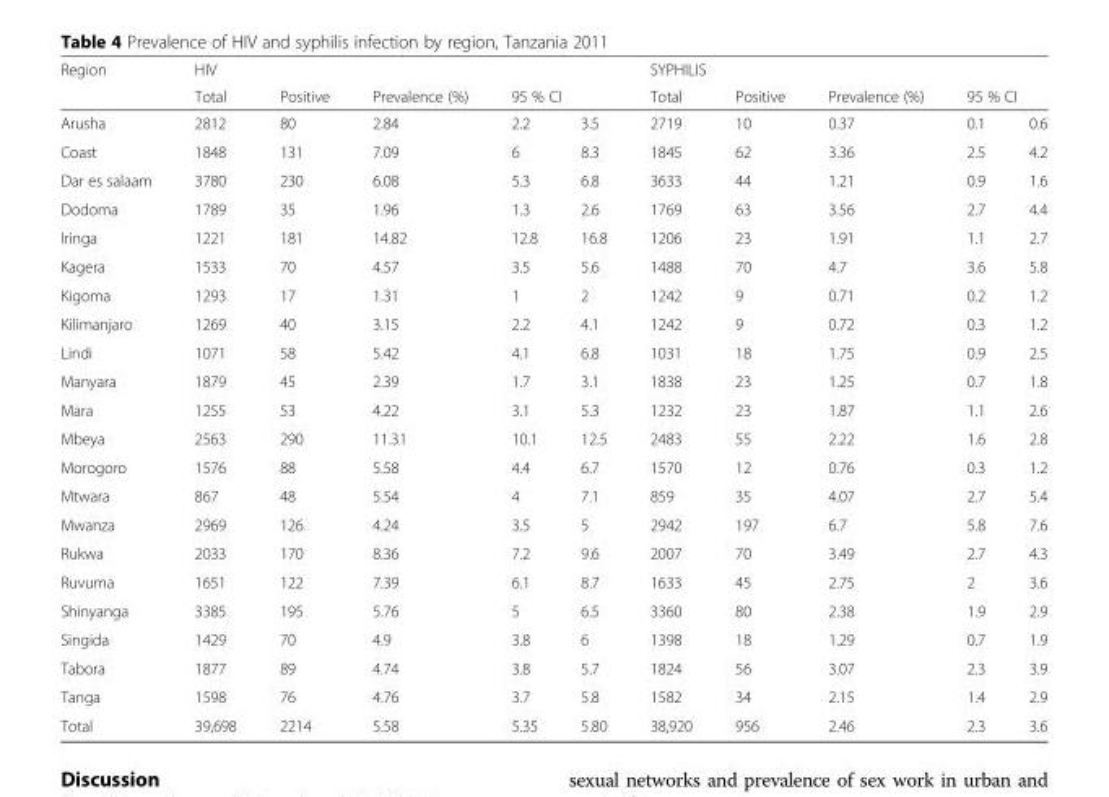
<table><thead><tr><td rowspan="3">Region Arusha</td><td colspan="5">HIV</td><td colspan="5">SYPHILIS</td></tr><tr><td rowspan="2">Total 2812</td><td rowspan="2">Positive 80</td><td rowspan="2">Prevalence (%) 2.84</td><td colspan="2">95 % CI</td><td rowspan="2">Total 2719</td><td rowspan="2">Positive 10</td><td rowspan="2">Prevalence (%) 0.37</td><td colspan="2">95 % CI</td></tr><tr><td>2.2</td><td>3.5</td><td>0.1</td><td>0.6</td></tr></thead><tbody><tr><td>Coast</td><td>1848</td><td>131</td><td>7.09</td><td>6</td><td>8.3</td><td>1845</td><td>62</td><td>3.36</td><td>2.5</td><td>4.2</td></tr><tr><td>Dar es salaam</td><td>3780</td><td>230</td><td>6.08</td><td>5.3</td><td>6.8</td><td>3633</td><td>44</td><td>1.21</td><td>0.9</td><td>1.6</td></tr><tr><td>Dodoma</td><td>1789</td><td>35</td><td>1.96</td><td>1.3</td><td>2.6</td><td>1769</td><td>63</td><td>3.56</td><td>2.7</td><td>4.4</td></tr><tr><td>Iringa</td><td>1221</td><td>181</td><td>14.82</td><td>12.8</td><td>16.8</td><td>1206</td><td>23</td><td>1.91</td><td>1.1</td><td>2.7</td></tr><tr><td>Kagera</td><td>1533</td><td>70</td><td>4.57</td><td>3.5</td><td>5.6</td><td>1488</td><td>70</td><td>4.7</td><td>3.6</td><td>5.8</td></tr><tr><td>Kigoma</td><td>1293</td><td>17</td><td>1.31</td><td>1</td><td>2</td><td>1242</td><td>9</td><td>0.71</td><td>0.2</td><td>1.2</td></tr><tr><td>Kilimanjaro</td><td>1269</td><td>40</td><td>3.15</td><td>2.2</td><td>4.1</td><td>1242</td><td>9</td><td>0.72</td><td>0.3</td><td>1.2</td></tr><tr><td>Lindi</td><td>1071</td><td>58</td><td>5.42</td><td>4.1</td><td>6.8</td><td>1031</td><td>18</td><td>1.75</td><td>0.9</td><td>2.5</td></tr><tr><td>Manyara</td><td>1879</td><td>45</td><td>2.39</td><td>1.7</td><td>3.1</td><td>1838</td><td>23</td><td>1.25</td><td>0.7</td><td>1.8</td></tr><tr><td>Mara</td><td>1255</td><td>53</td><td>4.22</td><td>3.1</td><td>5.3</td><td>1232</td><td>23</td><td>1.87</td><td>1.1</td><td>2.6</td></tr><tr><td>Mbeya</td><td>2563</td><td>290</td><td>11.31</td><td>10.1</td><td>12.5</td><td>2483</td><td>55</td><td>2.22</td><td>1.6</td><td>2.8</td></tr><tr><td>Morogoro</td><td>1576</td><td>88</td><td>5.58</td><td>4.4</td><td>6.7</td><td>1570</td><td>12</td><td>0.76</td><td>0.3</td><td>1.2</td></tr><tr><td>Mtwara</td><td>867</td><td>48</td><td>5.54</td><td>4</td><td>7.1</td><td>859</td><td>35</td><td>4.07</td><td>2.7</td><td>5.4</td></tr><tr><td>Mwanza</td><td>2969</td><td>126</td><td>4.24</td><td>3.5</td><td>5</td><td>2942</td><td>197</td><td>6.7</td><td>5.8</td><td>7.6</td></tr><tr><td>Rukwa</td><td>2033</td><td>170</td><td>8.36</td><td>7.2</td><td>9.6</td><td>2007</td><td>70</td><td>3.49</td><td>2.7</td><td>4.3</td></tr><tr><td>Ruvuma</td><td>1651</td><td>122</td><td>7.39</td><td>6.1</td><td>8.7</td><td>1633</td><td>45</td><td>2.75</td><td>2</td><td>3.6</td></tr><tr><td>Shinyanga</td><td>3385</td><td>195</td><td>5.76</td><td>5</td><td>6.5</td><td>3360</td><td>80</td><td>2.38</td><td>1.9</td><td>2.9</td></tr><tr><td>Singida</td><td>1429</td><td>70</td><td>4.9</td><td>3.8</td><td>6</td><td>1398</td><td>18</td><td>1.29</td><td>0.7</td><td>1.9</td></tr><tr><td>Tabora</td><td>1877</td><td>89</td><td>4.74</td><td>3.8</td><td>5.7</td><td>1824</td><td>56</td><td>3.07</td><td>2.3</td><td>3.9</td></tr><tr><td>Tanga</td><td>1598</td><td>76</td><td>4.76</td><td>3.7</td><td>5.8</td><td>1582</td><td>34</td><td>2.15</td><td>1.4</td><td>2.9</td></tr><tr><td>Total</td><td>39,698</td><td>2214</td><td>5.58</td><td>5.35</td><td>5.80</td><td>38,920</td><td>956</td><td>2.46</td><td>2.3</td><td>3.6</td></tr></tbody></table>